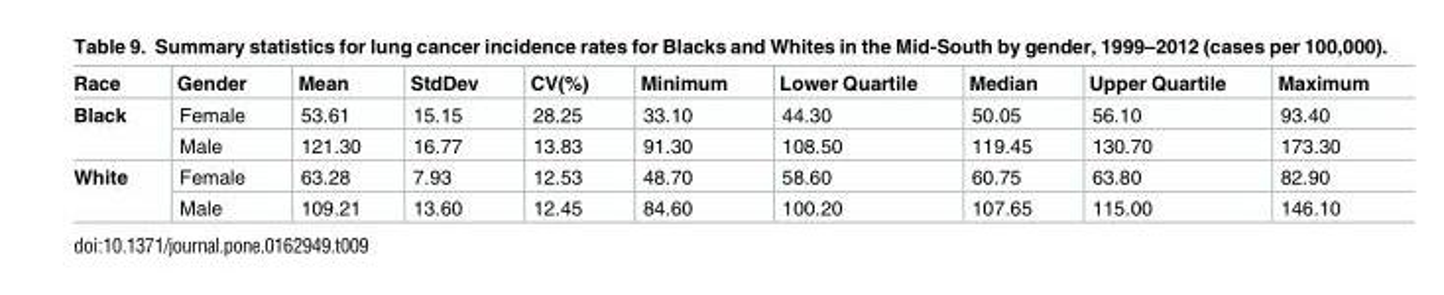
<table><thead><tr><td>Race</td><td>Gender</td><td>Mean</td><td>StdDev</td><td>CV(%)</td><td>Minimum</td><td>Lower Quartile</td><td>Median</td><td>Upper Quartile</td><td>Maximum</td></tr></thead><tbody><tr><td rowspan="2">Black</td><td>Female</td><td>53.61</td><td>15.15</td><td>28.25</td><td>33.10</td><td>44.30</td><td>50.05</td><td>56.10</td><td>93.40</td></tr><tr><td>Male</td><td>121.30</td><td>16.77</td><td>13.83</td><td>91.30</td><td>108.50</td><td>119.45</td><td>130.70</td><td>173.30</td></tr><tr><td rowspan="2">White</td><td>Female</td><td>63.28</td><td>7.93</td><td>12.53</td><td>48.70</td><td>58.60</td><td>60.75</td><td>63.80</td><td>82.90</td></tr><tr><td>Male</td><td>109.21</td><td>13.60</td><td>12.45</td><td>84.60</td><td>100.20</td><td>107.65</td><td>115.00</td><td>146.10</td></tr></tbody></table>